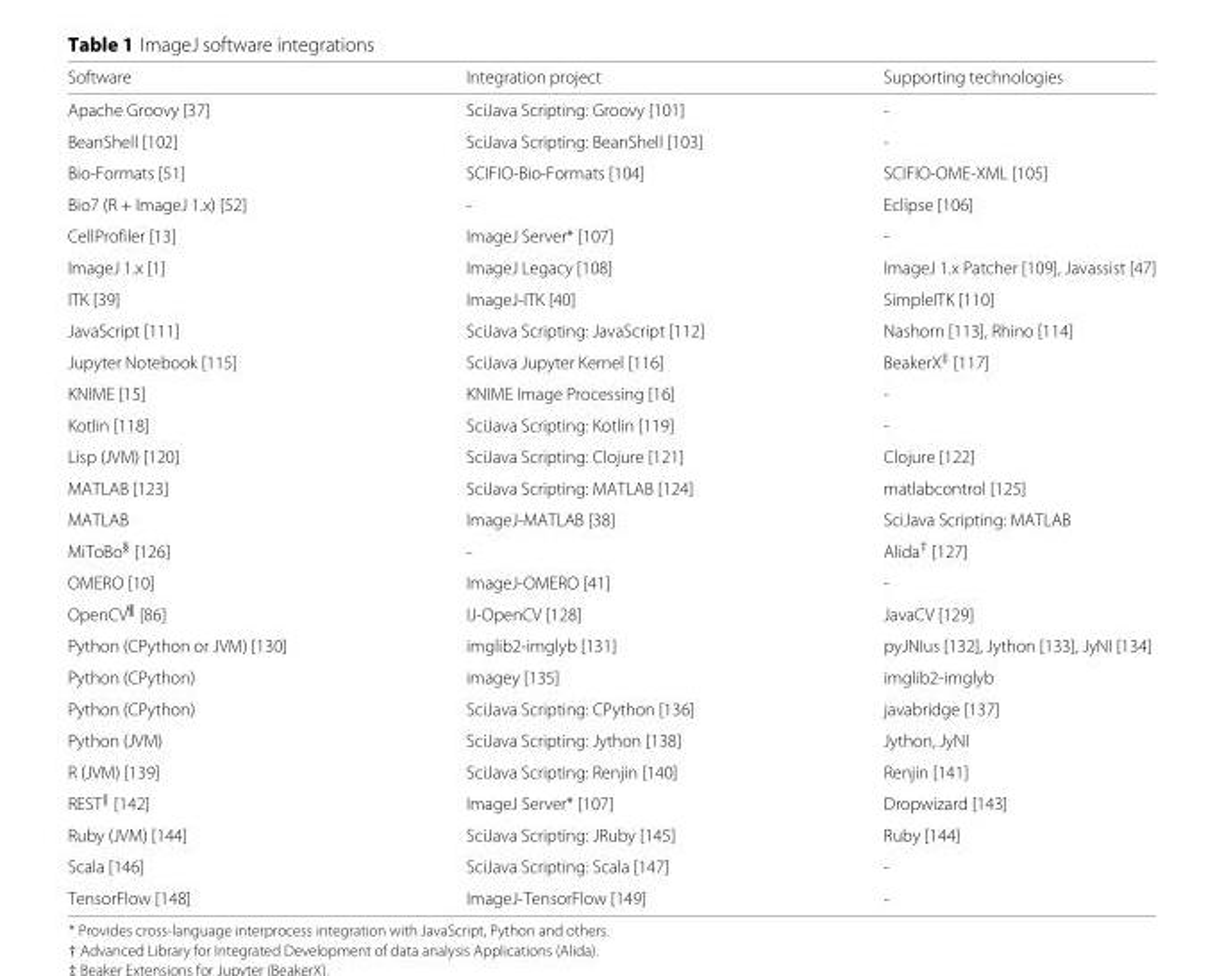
<table><thead><tr><td>Software</td><td>Integration project</td><td>Supporting technologies</td></tr></thead><tbody><tr><td>Apache Groovy [37]</td><td>SciJava Scripting: Groovy [101]</td><td>-</td></tr><tr><td>BeanShell [102]</td><td>SciJava Scripting: BeanShell [103]</td><td>-</td></tr><tr><td>Bio-Formats [51]</td><td>SCIFIO-Bio-Formats [104]</td><td>SCIFIO-OME-XML [105]</td></tr><tr><td>Bio7 (R + ImageJ 1.x) [52]</td><td>-</td><td>Eclipse [106]</td></tr><tr><td>CellProfiler [13]</td><td>ImageJ Server* [107]</td><td>-</td></tr><tr><td>ImageJ 1.x [1]</td><td>ImageJ Legacy [108]</td><td>ImageJ 1.x Patcher [109], Javassist [47]</td></tr><tr><td>ITK [39]</td><td>ImageJ-ITK [40]</td><td>SimpleITK [110]</td></tr><tr><td>JavaScript [111]</td><td>SciJava Scripting: JavaScript [112]</td><td>Nashorn [113], Rhino [114]</td></tr><tr><td>Jupyter Notebook [115]</td><td>SciJava Jupyter Kernel [116]</td><td>BeakerX<sup>‡</sup> [117]</td></tr><tr><td>KNIME [15]</td><td>KNIME Image Processing [16]</td><td>-</td></tr><tr><td>Kotlin [118]</td><td>SciJava Scripting: Kotlin [119]</td><td>-</td></tr><tr><td>Lisp (JVM) [120]</td><td>SciJava Scripting: Clojure [121]</td><td>Clojure [122]</td></tr><tr><td>MATLAB [123]</td><td>SciJava Scripting: MATLAB [124]</td><td>matlabcontrol [125]</td></tr><tr><td>MATLAB</td><td>ImageJ-MATLAB [38]</td><td>SciJava Scripting: MATLAB</td></tr><tr><td>MiToBo<sup>§</sup> [126]</td><td>-</td><td>Alida<sup>†</sup> [127]</td></tr><tr><td>OMERO [10]</td><td>ImageJ-OMERO [41]</td><td>-</td></tr><tr><td>OpenCV<sup>¶</sup> [86]</td><td>IJ-OpenCV [128]</td><td>JavaCV [129]</td></tr><tr><td>Python (CPython or JVM) [130]</td><td>imglib2-imglyb [131]</td><td>pyJNIus [132], Jython [133], JyNI [134]</td></tr><tr><td>Python (CPython)</td><td>imagey [135]</td><td>imglib2-imglyb</td></tr><tr><td>Python (CPython)</td><td>SciJava Scripting: CPython [136]</td><td>javabridge [137]</td></tr><tr><td>Python (JVM)</td><td>SciJava Scripting: Jython [138]</td><td>Jython, JyNI</td></tr><tr><td>R (JVM) [139]</td><td>SciJava Scripting: Renjin [140]</td><td>Renjin [141]</td></tr><tr><td>REST<sup>∥</sup> [142]</td><td>ImageJ Server* [107]</td><td>Dropwizard [143]</td></tr><tr><td>Ruby (JVM) [144]</td><td>SciJava Scripting: JRuby [145]</td><td>Ruby [144]</td></tr><tr><td>Scala [146]</td><td>SciJava Scripting: Scala [147]</td><td>-</td></tr><tr><td>TensorFlow [148]</td><td>ImageJ-TensorFlow [149]</td><td>-</td></tr></tbody></table>